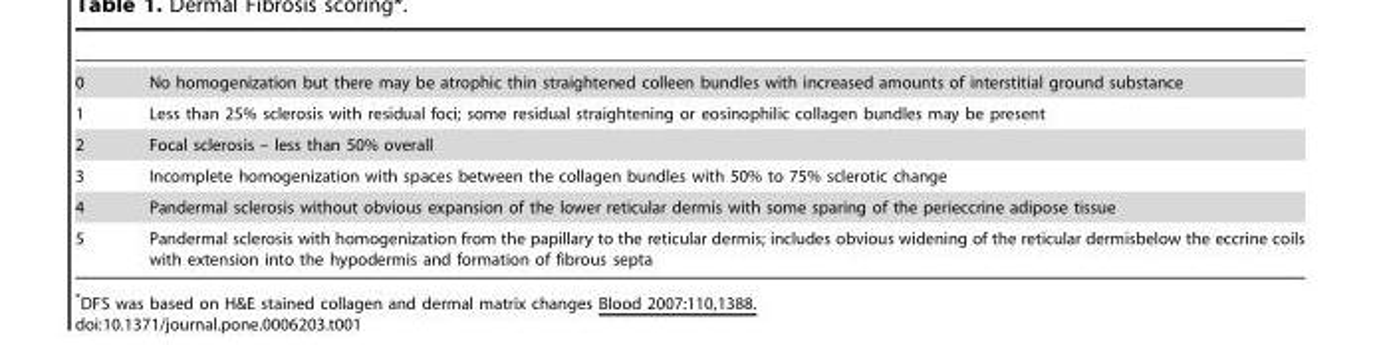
<table><tbody><tr><td>0</td><td>No homogenization but there may be atrophic thin straightened colleen bundles with increased amounts of interstitial ground substance</td></tr><tr><td>1</td><td>Less than 25% sclerosis with residual foci; some residual straightening or eosinophilic collagen bundles may be present</td></tr><tr><td>2</td><td>Focal sclerosis – less than 50% overall</td></tr><tr><td>3</td><td>Incomplete homogenization with spaces between the collagen bundles with 50% to 75% sclerotic change</td></tr><tr><td>4</td><td>Pandermal sclerosis without obvious expansion of the lower reticular dermis with some sparing of the perieccrine adipose tissue</td></tr><tr><td>5</td><td>Pandermal sclerosis with homogenization from the papillary to the reticular dermis; includes obvious widening of the reticular dermisbelow the eccrine coils with extension into the hypodermis and formation of fibrous septa</td></tr></tbody></table>